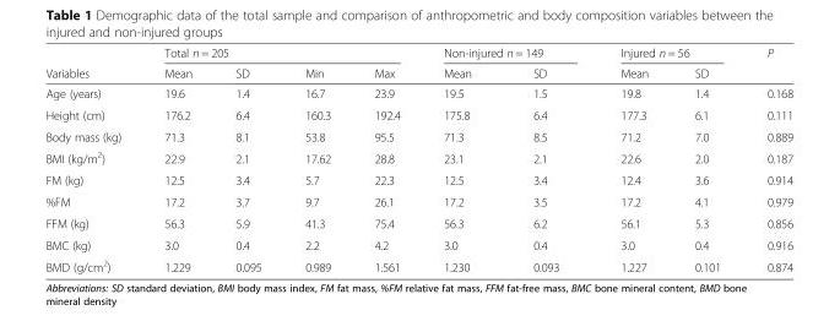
<table><thead><tr><td rowspan="2">Variables</td><td colspan="4">Total n = 205</td><td colspan="2">Non-injured n = 149</td><td colspan="2">Injured n = 56</td><td rowspan="2">P</td></tr><tr><td>Mean</td><td>SD</td><td>Min</td><td>Max</td><td>Mean</td><td>SD</td><td>Mean</td><td>SD</td></tr></thead><tbody><tr><td>Age (years)</td><td>19.6</td><td>1.4</td><td>16.7</td><td>23.9</td><td>19.5</td><td>1.5</td><td>19.8</td><td>1.4</td><td>0.168</td></tr><tr><td>Height (cm)</td><td>176.2</td><td>6.4</td><td>160.3</td><td>192.4</td><td>175.8</td><td>6.4</td><td>177.3</td><td>6.1</td><td>0.111</td></tr><tr><td>Body mass (kg)</td><td>71.3</td><td>8.1</td><td>53.8</td><td>95.5</td><td>71.3</td><td>8.5</td><td>71.2</td><td>7.0</td><td>0.889</td></tr><tr><td>BMI (kg/m<sup>2</sup>)</td><td>22.9</td><td>2.1</td><td>17.62</td><td>28.8</td><td>23.1</td><td>2.1</td><td>22.6</td><td>2.0</td><td>0.187</td></tr><tr><td>FM (kg)</td><td>12.5</td><td>3.4</td><td>5.7</td><td>22.3</td><td>12.5</td><td>3.4</td><td>12.4</td><td>3.6</td><td>0.914</td></tr><tr><td>%FM</td><td>17.2</td><td>3.7</td><td>9.7</td><td>26.1</td><td>17.2</td><td>3.5</td><td>17.2</td><td>4.1</td><td>0.979</td></tr><tr><td>FFM (kg)</td><td>56.3</td><td>5.9</td><td>41.3</td><td>75.4</td><td>56.3</td><td>6.2</td><td>56.1</td><td>5.3</td><td>0.856</td></tr><tr><td>BMC (kg)</td><td>3.0</td><td>0.4</td><td>2.2</td><td>4.2</td><td>3.0</td><td>0.4</td><td>3.0</td><td>0.4</td><td>0.916</td></tr><tr><td>BMD (g/cm<sup>2</sup>)</td><td>1.229</td><td>0.095</td><td>0.989</td><td>1.561</td><td>1.230</td><td>0.093</td><td>1.227</td><td>0.101</td><td>0.874</td></tr></tbody></table>